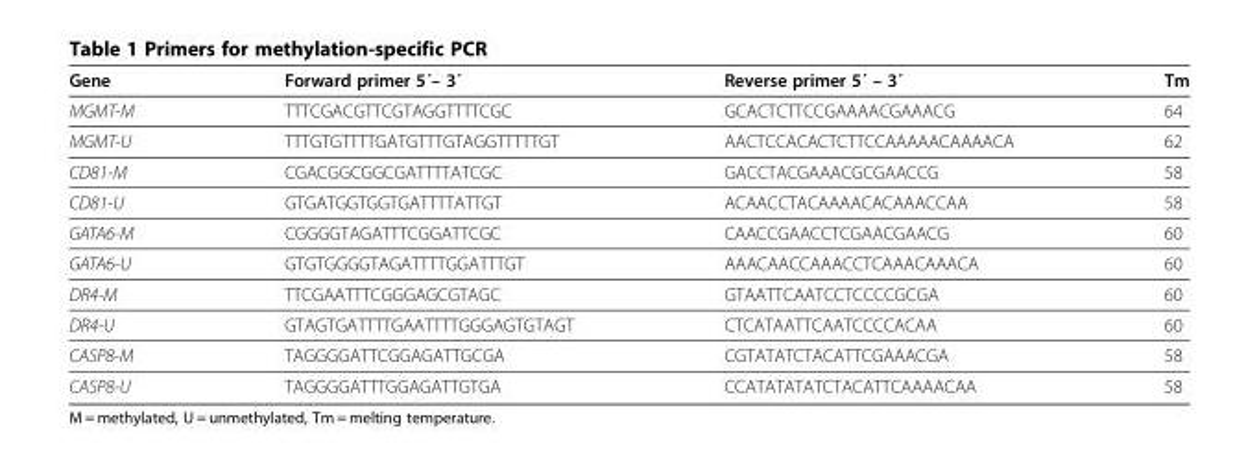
<table><thead><tr><td>Gene</td><td>Forward primer 5´– 3´</td><td>Reverse primer 5´ – 3´</td><td>Tm</td></tr></thead><tbody><tr><td>MGMT-M</td><td>TTTCGACGTTCGTAGGTTTTCGC</td><td>GCACTCTTCCGAAAACGAAACG</td><td>64</td></tr><tr><td>MGMT-U</td><td>TTTGTGTTTTGATGTTTGTAGGTTTTTGT</td><td>AACTCCACACTCTTCCAAAAACAAAACA</td><td>62</td></tr><tr><td>CD81-M</td><td>CGACGGCGGCGATTTTATCGC</td><td>GACCTACGAAACGCGAACCG</td><td>58</td></tr><tr><td>CD81-U</td><td>GTGATGGTGGTGATTTTATTGT</td><td>ACAACCTACAAAACACAAACCAA</td><td>58</td></tr><tr><td>GATA6-M</td><td>CGGGGTAGATTTCGGATTCGC</td><td>CAACCGAACCTCGAACGAACG</td><td>60</td></tr><tr><td>GATA6-U</td><td>GTGTGGGGTAGATTTTGGATTTGT</td><td>AAACAACCAAACCTCAAACAAACA</td><td>60</td></tr><tr><td>DR4-M</td><td>TTCGAATTTCGGGAGCGTAGC</td><td>GTAATTCAATCCTCCCCGCGA</td><td>60</td></tr><tr><td>DR4-U</td><td>GTAGTGATTTTGAATTTTGGGAGTGTAGT</td><td>CTCATAATTCAATCCCCACAA</td><td>60</td></tr><tr><td>CASP8-M</td><td>TAGGGGATTCGGAGATTGCGA</td><td>CGTATATCTACATTCGAAACGA</td><td>58</td></tr><tr><td>CASP8-U</td><td>TAGGGGATTTGGAGATTGTGA</td><td>CCATATATATCTACATTCAAAACAA</td><td>58</td></tr></tbody></table>